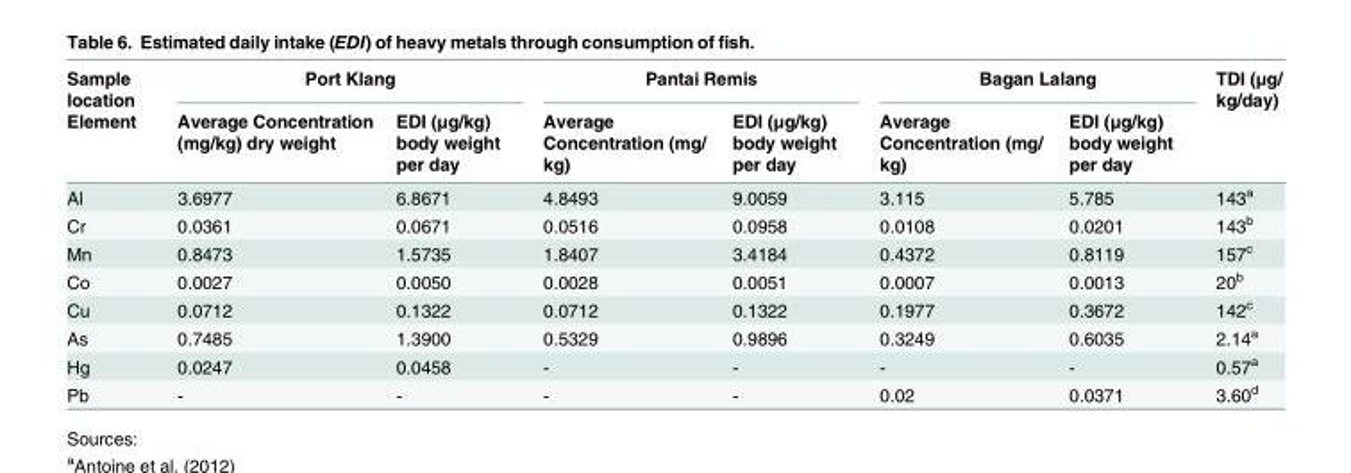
<table><thead><tr><td rowspan="2">Sample location Element</td><td colspan="2">Port Klang</td><td colspan="2">Pantai Remis</td><td colspan="2">Bagan Lalang</td><td rowspan="2">TDI (μg/ kg/day)</td></tr><tr><td>Average Concentration (mg/kg) dry weight</td><td>EDI (μg/kg) body weight per day</td><td>Average Concentration (mg/ kg)</td><td>EDI (μg/kg) body weight per day</td><td>Average Concentration (mg/ kg)</td><td>EDI (μg/kg) body weight per day</td></tr></thead><tbody><tr><td>Al</td><td>3.6977</td><td>6.8671</td><td>4.8493</td><td>9.0059</td><td>3.115</td><td>5.785</td><td>143<sup>a</sup></td></tr><tr><td>Cr</td><td>0.0361</td><td>0.0671</td><td>0.0516</td><td>0.0958</td><td>0.0108</td><td>0.0201</td><td>143<sup>b</sup></td></tr><tr><td>Mn</td><td>0.8473</td><td>1.5735</td><td>1.8407</td><td>3.4184</td><td>0.4372</td><td>0.8119</td><td>157<sup>c</sup></td></tr><tr><td>Co</td><td>0.0027</td><td>0.0050</td><td>0.0028</td><td>0.0051</td><td>0.0007</td><td>0.0013</td><td>20<sup>b</sup></td></tr><tr><td>Cu</td><td>0.0712</td><td>0.1322</td><td>0.0712</td><td>0.1322</td><td>0.1977</td><td>0.3672</td><td>142<sup>c</sup></td></tr><tr><td>As</td><td>0.7485</td><td>1.3900</td><td>0.5329</td><td>0.9896</td><td>0.3249</td><td>0.6035</td><td>2.14<sup>a</sup></td></tr><tr><td>Hg</td><td>0.0247</td><td>0.0458</td><td>-</td><td>-</td><td>-</td><td>-</td><td>0.57<sup>a</sup></td></tr><tr><td>Pb</td><td>-</td><td>-</td><td>-</td><td>-</td><td>0.02</td><td>0.0371</td><td>3.60<sup>d</sup></td></tr></tbody></table>